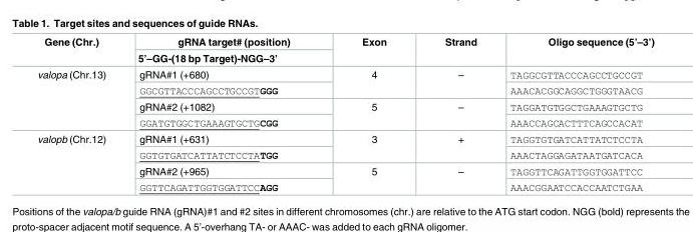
<table><thead><tr><td rowspan="2">Gene (Chr.)</td><td rowspan="2">gRNA target# (position) 5’–GG-(18 bp Target)-NGG–3’</td><td rowspan="2">Exon</td><td rowspan="2">Strand</td><td rowspan="2">Oligo sequence (5’–3’)</td></tr><tr></tr></thead><tbody><tr><td rowspan="4">valopa (Chr.13)</td><td>gRNA#1 (+680)</td><td rowspan="2">4</td><td rowspan="2">–</td><td>TAGGCGTTACCCAGCCTGCCGT</td></tr><tr><td>GGCGTTACCCAGCCTGCCGTGGG</td><td>AAACACGGCAGGCTGGGTAACG</td></tr><tr><td>gRNA#2 (+1082)</td><td rowspan="2">5</td><td rowspan="2">–</td><td>TAGGATGTGGCTGAAAGTGCTG</td></tr><tr><td>GGATGTGGCTGAAAGTGCTGCGG</td><td>AAACCAGCACTTTCAGCCACAT</td></tr><tr><td rowspan="4">valopb (Chr.12)</td><td>gRNA#1 (+631)</td><td rowspan="2">3</td><td rowspan="2">+</td><td>TAGGTGTGATCATTATCTCCTA</td></tr><tr><td>GGTGTGATCATTATCTCCTATGG</td><td>AAACTAGGAGATAATGATCACA</td></tr><tr><td>gRNA#2 (+965)</td><td rowspan="2">5</td><td rowspan="2">–</td><td>TAGGTTCAGATTGGTGGATTCC</td></tr><tr><td>GGTTCAGATTGGTGGATTCCAGG</td><td>AAACGGAATCCACCAATCTGAA</td></tr></tbody></table>